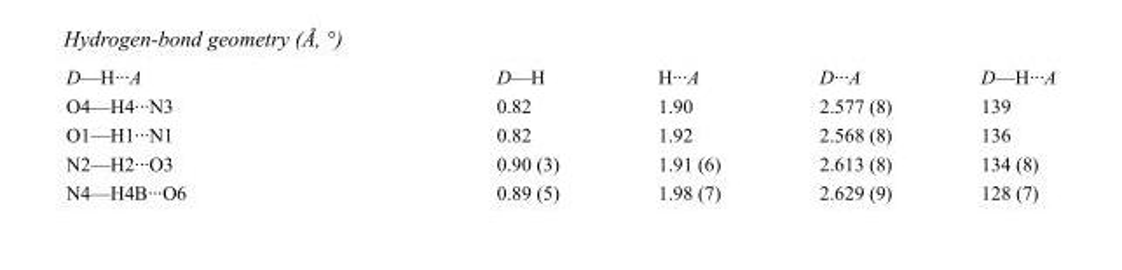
<table><tbody><tr><td>D—H···A</td><td>D—H</td><td>H···A</td><td>D···A</td><td>D—H···A</td></tr><tr><td>O4—H4···N3</td><td>0.82</td><td>1.90</td><td>2.577 (8)</td><td>139</td></tr><tr><td>O1—H1···N1</td><td>0.82</td><td>1.92</td><td>2.568 (8)</td><td>136</td></tr><tr><td>N2—H2···O3</td><td>0.90 (3)</td><td>1.91 (6)</td><td>2.613 (8)</td><td>134 (8)</td></tr><tr><td>N4—H4B···O6</td><td>0.89 (5)</td><td>1.98 (7)</td><td>2.629 (9)</td><td>128 (7)</td></tr></tbody></table>